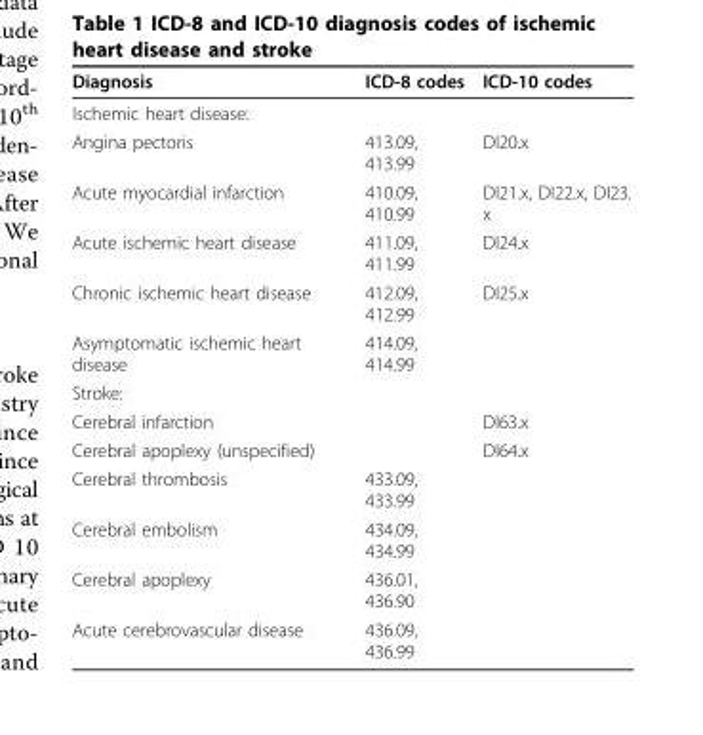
<table><thead><tr><td>Diagnosis</td><td>ICD-8 codes</td><td>ICD-10 codes</td></tr></thead><tbody><tr><td colspan="3">Ischemic heart disease:</td></tr><tr><td>Angina pectoris</td><td>413.09, 413.99</td><td>DI20.x</td></tr><tr><td>Acute myocardial infarction</td><td>410.09, 410.99</td><td>DI21.x, DI22.x, DI23. x</td></tr><tr><td>Acute ischemic heart disease</td><td>411.09, 411.99</td><td>DI24.x</td></tr><tr><td>Chronic ischemic heart disease</td><td>412.09, 412.99</td><td>DI25.x</td></tr><tr><td>Asymptomatic ischemic heart disease</td><td>414.09, 414.99</td><td></td></tr><tr><td colspan="3">Stroke:</td></tr><tr><td>Cerebral infarction</td><td></td><td>DI63.x</td></tr><tr><td>Cerebral apoplexy (unspecified)</td><td></td><td>DI64.x</td></tr><tr><td>Cerebral thrombosis</td><td>433.09, 433.99</td><td></td></tr><tr><td>Cerebral embolism</td><td>434.09, 434.99</td><td></td></tr><tr><td>Cerebral apoplexy</td><td>436.01, 436.90</td><td></td></tr><tr><td>Acute cerebrovascular disease</td><td>436.09, 436.99</td><td></td></tr></tbody></table>